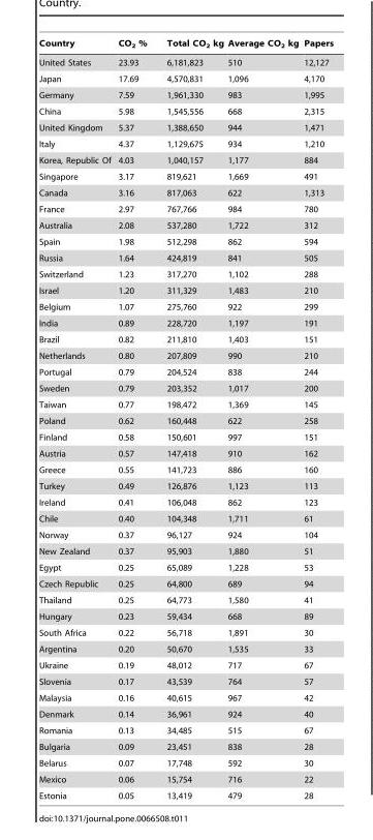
<table><thead><tr><td>Country</td><td>CO<sub>2</sub> %</td><td>Total CO<sub>2</sub> kg</td><td>Average CO<sub>2</sub> kg</td><td>Papers</td></tr></thead><tbody><tr><td>United States</td><td>23.93</td><td>6,181,823</td><td>510</td><td>12,127</td></tr><tr><td>Japan</td><td>17.69</td><td>4,570,831</td><td>1,096</td><td>4,170</td></tr><tr><td>Germany</td><td>7.59</td><td>1,961,330</td><td>983</td><td>1,995</td></tr><tr><td>China</td><td>5.98</td><td>1,545,556</td><td>668</td><td>2,315</td></tr><tr><td>United Kingdom</td><td>5.37</td><td>1,388,650</td><td>944</td><td>1,471</td></tr><tr><td>Italy</td><td>4.37</td><td>1,129,675</td><td>934</td><td>1,210</td></tr><tr><td>Korea, Republic Of</td><td>4.03</td><td>1,040,157</td><td>1,177</td><td>884</td></tr><tr><td>Singapore</td><td>3.17</td><td>819,621</td><td>1,669</td><td>491</td></tr><tr><td>Canada</td><td>3.16</td><td>817,063</td><td>622</td><td>1,313</td></tr><tr><td>France</td><td>2.97</td><td>767,766</td><td>984</td><td>780</td></tr><tr><td>Australia</td><td>2.08</td><td>537,280</td><td>1,722</td><td>312</td></tr><tr><td>Spain</td><td>1.98</td><td>512,298</td><td>862</td><td>594</td></tr><tr><td>Russia</td><td>1.64</td><td>424,819</td><td>841</td><td>505</td></tr><tr><td>Switzerland</td><td>1.23</td><td>317,270</td><td>1,102</td><td>288</td></tr><tr><td>Israel</td><td>1.20</td><td>311,329</td><td>1,483</td><td>210</td></tr><tr><td>Belgium</td><td>1.07</td><td>275,760</td><td>922</td><td>299</td></tr><tr><td>India</td><td>0.89</td><td>228,720</td><td>1,197</td><td>191</td></tr><tr><td>Brazil</td><td>0.82</td><td>211,810</td><td>1,403</td><td>151</td></tr><tr><td>Netherlands</td><td>0.80</td><td>207,809</td><td>990</td><td>210</td></tr><tr><td>Portugal</td><td>0.79</td><td>204,524</td><td>838</td><td>244</td></tr><tr><td>Sweden</td><td>0.79</td><td>203,352</td><td>1,017</td><td>200</td></tr><tr><td>Taiwan</td><td>0.77</td><td>198,472</td><td>1,369</td><td>145</td></tr><tr><td>Poland</td><td>0.62</td><td>160,448</td><td>622</td><td>258</td></tr><tr><td>Finland</td><td>0.58</td><td>150,601</td><td>997</td><td>151</td></tr><tr><td>Austria</td><td>0.57</td><td>147,418</td><td>910</td><td>162</td></tr><tr><td>Greece</td><td>0.55</td><td>141,723</td><td>886</td><td>160</td></tr><tr><td>Turkey</td><td>0.49</td><td>126,876</td><td>1,123</td><td>113</td></tr><tr><td>Ireland</td><td>0.41</td><td>106,048</td><td>862</td><td>123</td></tr><tr><td>Chile</td><td>0.40</td><td>104,348</td><td>1,711</td><td>61</td></tr><tr><td>Norway</td><td>0.37</td><td>96,127</td><td>924</td><td>104</td></tr><tr><td>New Zealand</td><td>0.37</td><td>95,903</td><td>1,880</td><td>51</td></tr><tr><td>Egypt</td><td>0.25</td><td>65,089</td><td>1,228</td><td>53</td></tr><tr><td>Czech Republic</td><td>0.25</td><td>64,800</td><td>689</td><td>94</td></tr><tr><td>Thailand</td><td>0.25</td><td>64,773</td><td>1,580</td><td>41</td></tr><tr><td>Hungary</td><td>0.23</td><td>59,434</td><td>668</td><td>89</td></tr><tr><td>South Africa</td><td>0.22</td><td>56,718</td><td>1,891</td><td>30</td></tr><tr><td>Argentina</td><td>0.20</td><td>50,670</td><td>1,535</td><td>33</td></tr><tr><td>Ukraine</td><td>0.19</td><td>48,012</td><td>717</td><td>67</td></tr><tr><td>Slovenia</td><td>0.17</td><td>43,539</td><td>764</td><td>57</td></tr><tr><td>Malaysia</td><td>0.16</td><td>40,615</td><td>967</td><td>42</td></tr><tr><td>Denmark</td><td>0.14</td><td>36,961</td><td>924</td><td>40</td></tr><tr><td>Romania</td><td>0.13</td><td>34,485</td><td>515</td><td>67</td></tr><tr><td>Bulgaria</td><td>0.09</td><td>23,451</td><td>838</td><td>28</td></tr><tr><td>Belarus</td><td>0.07</td><td>17,748</td><td>592</td><td>30</td></tr><tr><td>Mexico</td><td>0.06</td><td>15,754</td><td>716</td><td>22</td></tr><tr><td>Estonia</td><td>0.05</td><td>13,419</td><td>479</td><td>28</td></tr></tbody></table>